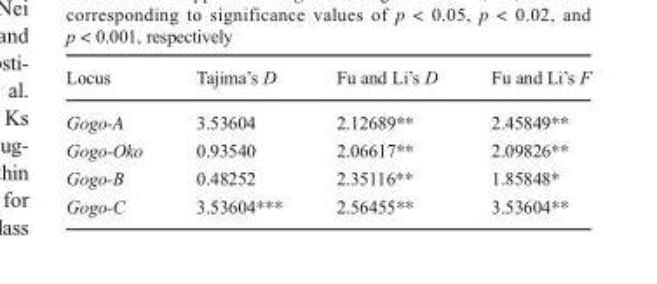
<table><thead><tr><td>Locus</td><td>Tajima’s D</td><td>Fu and Li’s D</td><td>Fu and Li’s F</td></tr></thead><tbody><tr><td>Gogo-A</td><td>3.53604</td><td>2.12689**</td><td>2.45849**</td></tr><tr><td>Gogo-Oko</td><td>0.93540</td><td>2.06617**</td><td>2.09826**</td></tr><tr><td>Gogo-B</td><td>0.48252</td><td>2.35116**</td><td>1.85848*</td></tr><tr><td>Gogo-C</td><td>3.53604***</td><td>2.56455**</td><td>3.53604**</td></tr></tbody></table>